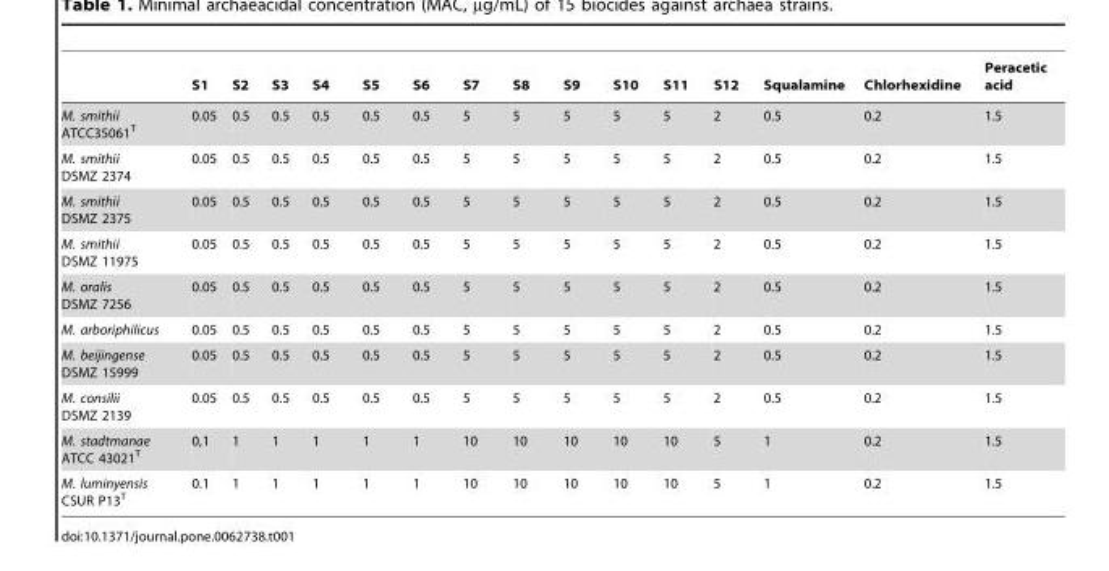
<table><thead><tr><td></td><td>S1</td><td>S2</td><td>S3</td><td>S4</td><td>S5</td><td>S6</td><td>S7</td><td>S8</td><td>S9</td><td>S10</td><td>S11</td><td>S12</td><td>Squalamine</td><td>Chlorhexidine</td><td>Peracetic acid</td></tr></thead><tbody><tr><td>M. smithii ATCC35061<sup>T</sup></td><td>0.05</td><td>0.5</td><td>0.5</td><td>0.5</td><td>0.5</td><td>0.5</td><td>5</td><td>5</td><td>5</td><td>5</td><td>5</td><td>2</td><td>0.5</td><td>0.2</td><td>1.5</td></tr><tr><td>M. smithii DSMZ 2374</td><td>0.05</td><td>0.5</td><td>0.5</td><td>0.5</td><td>0.5</td><td>0.5</td><td>5</td><td>5</td><td>5</td><td>5</td><td>5</td><td>2</td><td>0.5</td><td>0.2</td><td>1.5</td></tr><tr><td>M. smithii DSMZ 2375</td><td>0.05</td><td>0.5</td><td>0.5</td><td>0.5</td><td>0.5</td><td>0.5</td><td>5</td><td>5</td><td>5</td><td>5</td><td>5</td><td>2</td><td>0.5</td><td>0.2</td><td>1.5</td></tr><tr><td>M. smithii DSMZ 11975</td><td>0.05</td><td>0.5</td><td>0.5</td><td>0.5</td><td>0.5</td><td>0.5</td><td>5</td><td>5</td><td>5</td><td>5</td><td>5</td><td>2</td><td>0.5</td><td>0.2</td><td>1.5</td></tr><tr><td>M. oralis DSMZ 7256</td><td>0.05</td><td>0.5</td><td>0.5</td><td>0.5</td><td>0.5</td><td>0.5</td><td>5</td><td>5</td><td>5</td><td>5</td><td>5</td><td>2</td><td>0.5</td><td>0.2</td><td>1.5</td></tr><tr><td>M. arboriphilicus</td><td>0.05</td><td>0.5</td><td>0.5</td><td>0.5</td><td>0.5</td><td>0.5</td><td>5</td><td>5</td><td>5</td><td>5</td><td>5</td><td>2</td><td>0.5</td><td>0.2</td><td>1.5</td></tr><tr><td>M. beijingense DSMZ 15999</td><td>0.05</td><td>0.5</td><td>0.5</td><td>0.5</td><td>0.5</td><td>0.5</td><td>5</td><td>5</td><td>5</td><td>5</td><td>5</td><td>2</td><td>0.5</td><td>0.2</td><td>1.5</td></tr><tr><td>M. consilii DSMZ 2139</td><td>0.05</td><td>0.5</td><td>0.5</td><td>0.5</td><td>0.5</td><td>0.5</td><td>5</td><td>5</td><td>5</td><td>5</td><td>5</td><td>2</td><td>0.5</td><td>0.2</td><td>1.5</td></tr><tr><td>M. stadtmanae ATCC 43021<sup>T</sup></td><td>0,1</td><td>1</td><td>1</td><td>1</td><td>1</td><td>1</td><td>10</td><td>10</td><td>10</td><td>10</td><td>10</td><td>5</td><td>1</td><td>0.2</td><td>1.5</td></tr><tr><td>M. luminyensis CSUR P13<sup>T</sup></td><td>0.1</td><td>1</td><td>1</td><td>1</td><td>1</td><td>1</td><td>10</td><td>10</td><td>10</td><td>10</td><td>10</td><td>5</td><td>1</td><td>0.2</td><td>1.5</td></tr></tbody></table>